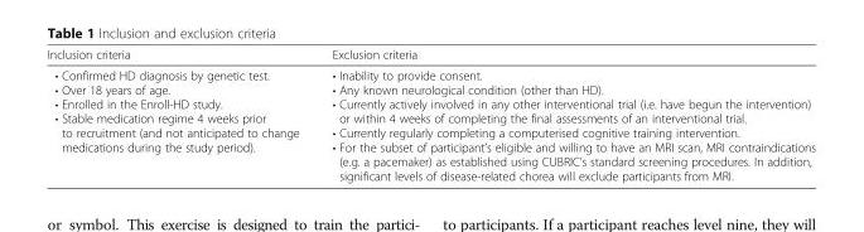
<table><thead><tr><td>Inclusion criteria</td><td>Exclusion criteria</td></tr></thead><tbody><tr><td>• Confirmed HD diagnosis by genetic test. • Over 18 years of age. • Enrolled in the Enroll-HD study. • Stable medication regime 4 weeks prior to recruitment (and not anticipated to change medications during the study period).</td><td>• Inability to provide consent. • Any known neurological condition (other than HD). • Currently actively involved in any other interventional trial (i.e. have begun the intervention) or within 4 weeks of completing the final assessments of an interventional trial. • Currently regularly completing a computerised cognitive training intervention. • For the subset of participant’s eligible and willing to have an MRI scan, MRI contraindications (e.g. a pacemaker) as established using CUBRIC’s standard screening procedures. In addition, significant levels of disease-related chorea will exclude participants from MRI.</td></tr></tbody></table>